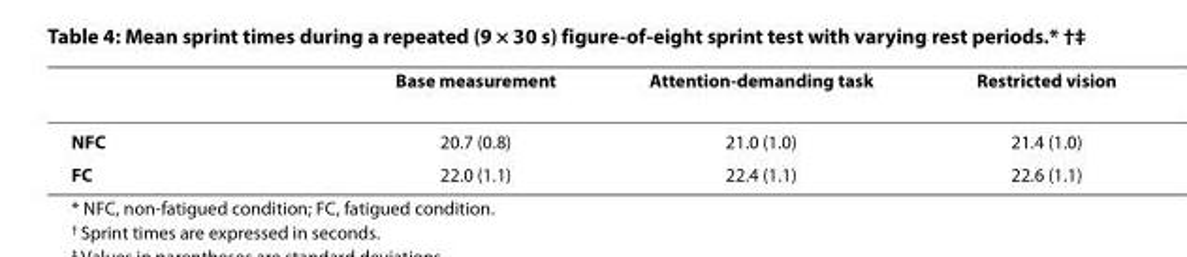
<table><thead><tr><td></td><td>Base measurement</td><td>Attention-demanding task</td><td>Restricted vision</td></tr></thead><tbody><tr><td>NFC</td><td>20.7 (0.8)</td><td>21.0 (1.0)</td><td>21.4 (1.0)</td></tr><tr><td>FC</td><td>22.0 (1.1)</td><td>22.4 (1.1)</td><td>22.6 (1.1)</td></tr></tbody></table>